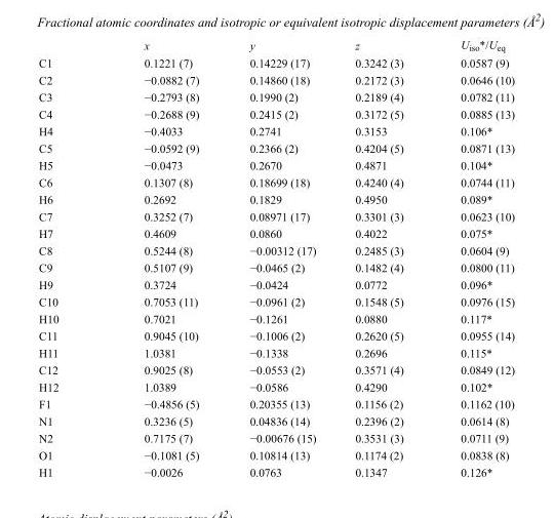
<table><thead><tr><td></td><td>x</td><td>y</td><td>z</td><td>U<sub>iso</sub>*/U<sub>eq</sub></td></tr></thead><tbody><tr><td>C1</td><td>0.1221 (7)</td><td>0.14229 (17)</td><td>0.3242 (3)</td><td>0.0587 (9)</td></tr><tr><td>C2</td><td>−0.0882 (7)</td><td>0.14860 (18)</td><td>0.2172 (3)</td><td>0.0646 (10)</td></tr><tr><td>C3</td><td>−0.2793 (8)</td><td>0.1990 (2)</td><td>0.2189 (4)</td><td>0.0782 (11)</td></tr><tr><td>C4</td><td>−0.2688 (9)</td><td>0.2415 (2)</td><td>0.3172 (5)</td><td>0.0885 (13)</td></tr><tr><td>H4</td><td>−0.4033</td><td>0.2741</td><td>0.3153</td><td>0.106*</td></tr><tr><td>C5</td><td>−0.0592 (9)</td><td>0.2366 (2)</td><td>0.4204 (5)</td><td>0.0871 (13)</td></tr><tr><td>H5</td><td>−0.0473</td><td>0.2670</td><td>0.4871</td><td>0.104*</td></tr><tr><td>C6</td><td>0.1307 (8)</td><td>0.18699 (18)</td><td>0.4240 (4)</td><td>0.0744 (11)</td></tr><tr><td>H6</td><td>0.2692</td><td>0.1829</td><td>0.4950</td><td>0.089*</td></tr><tr><td>C7</td><td>0.3252 (7)</td><td>0.08971 (17)</td><td>0.3301 (3)</td><td>0.0623 (10)</td></tr><tr><td>H7</td><td>0.4609</td><td>0.0860</td><td>0.4022</td><td>0.075*</td></tr><tr><td>C8</td><td>0.5244 (8)</td><td>−0.00312 (17)</td><td>0.2485 (3)</td><td>0.0604 (9)</td></tr><tr><td>C9</td><td>0.5107 (9)</td><td>−0.0465 (2)</td><td>0.1482 (4)</td><td>0.0800 (11)</td></tr><tr><td>H9</td><td>0.3724</td><td>−0.0424</td><td>0.0772</td><td>0.096*</td></tr><tr><td>C10</td><td>0.7053 (11)</td><td>−0.0961 (2)</td><td>0.1548 (5)</td><td>0.0976 (15)</td></tr><tr><td>H10</td><td>0.7021</td><td>−0.1261</td><td>0.0880</td><td>0.117*</td></tr><tr><td>C11</td><td>0.9045 (10)</td><td>−0.1006 (2)</td><td>0.2620 (5)</td><td>0.0955 (14)</td></tr><tr><td>H11</td><td>1.0381</td><td>−0.1338</td><td>0.2696</td><td>0.115*</td></tr><tr><td>C12</td><td>0.9025 (8)</td><td>−0.0553 (2)</td><td>0.3571 (4)</td><td>0.0849 (12)</td></tr><tr><td>H12</td><td>1.0389</td><td>−0.0586</td><td>0.4290</td><td>0.102*</td></tr><tr><td>F1</td><td>−0.4856 (5)</td><td>0.20355 (13)</td><td>0.1156 (2)</td><td>0.1162 (10)</td></tr><tr><td>N1</td><td>0.3236 (5)</td><td>0.04836 (14)</td><td>0.2396 (2)</td><td>0.0614 (8)</td></tr><tr><td>N2</td><td>0.7175 (7)</td><td>−0.00676 (15)</td><td>0.3531 (3)</td><td>0.0711 (9)</td></tr><tr><td>O1</td><td>−0.1081 (5)</td><td>0.10814 (13)</td><td>0.1174 (2)</td><td>0.0838 (8)</td></tr><tr><td>H1</td><td>−0.0026</td><td>0.0763</td><td>0.1347</td><td>0.126*</td></tr></tbody></table>